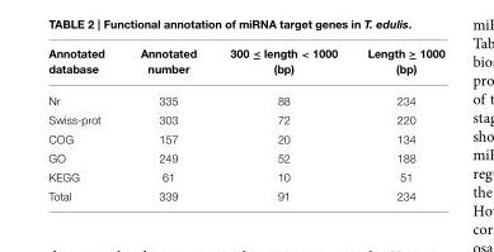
<table><thead><tr><td>Annotated database</td><td>Annotated number</td><td>300 ≤ length &lt; 1000 (bp)</td><td>Length ≥ 1000 (bp)</td></tr></thead><tbody><tr><td>Nr</td><td>335</td><td>88</td><td>234</td></tr><tr><td>Swiss-prot</td><td>303</td><td>72</td><td>220</td></tr><tr><td>COG</td><td>157</td><td>20</td><td>134</td></tr><tr><td>GO</td><td>249</td><td>52</td><td>188</td></tr><tr><td>KEGG</td><td>61</td><td>10</td><td>51</td></tr><tr><td>Total</td><td>339</td><td>91</td><td>234</td></tr></tbody></table>